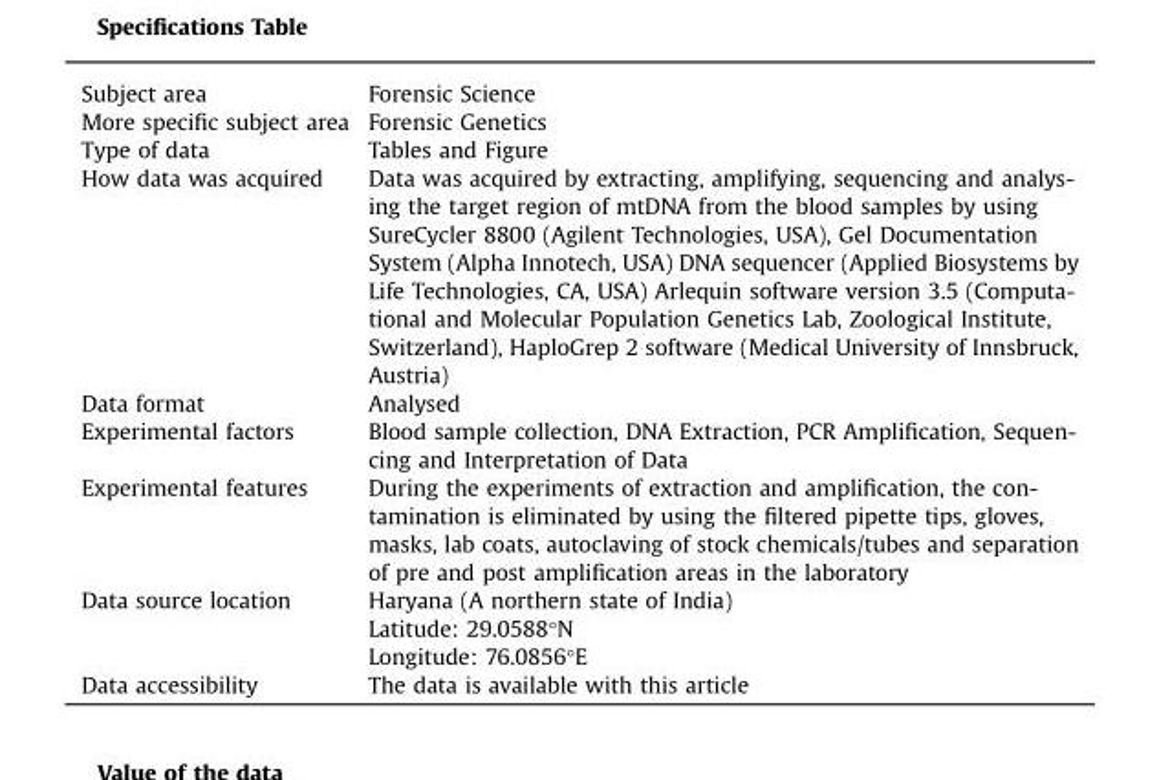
<table><tbody><tr><td>Subject area</td><td>Forensic Science</td></tr><tr><td>More specific subject area</td><td>Forensic Genetics</td></tr><tr><td>Type of data</td><td>Tables and Figure</td></tr><tr><td>How data was acquired</td><td>Data was acquired by extracting, amplifying, sequencing and analys- ing the target region of mtDNA from the blood samples by using SureCycler 8800 (Agilent Technologies, USA), Gel Documentation System (Alpha Innotech, USA) DNA sequencer (Applied Biosystems by Life Technologies, CA, USA) Arlequin software version 3.5 (Computa- tional and Molecular Population Genetics Lab, Zoological Institute, Switzerland), HaploGrep 2 software (Medical University of Innsbruck, Austria)</td></tr><tr><td>Data format</td><td>Analysed</td></tr><tr><td>Experimental factors</td><td>Blood sample collection, DNA Extraction, PCR Amplification, Sequen- cing and Interpretation of Data</td></tr><tr><td>Experimental features</td><td>During the experiments of extraction and amplification, the con- tamination is eliminated by using the filtered pipette tips, gloves, masks, lab coats, autoclaving of stock chemicals/tubes and separation of pre and post amplification areas in the laboratory</td></tr><tr><td rowspan="3">Data source location</td><td>Haryana (A northern state of India)</td></tr><tr><td>Latitude: 29.0588°N</td></tr><tr><td>Longitude: 76.0856°E</td></tr><tr><td>Data accessibility</td><td>The data is available with this article</td></tr></tbody></table>